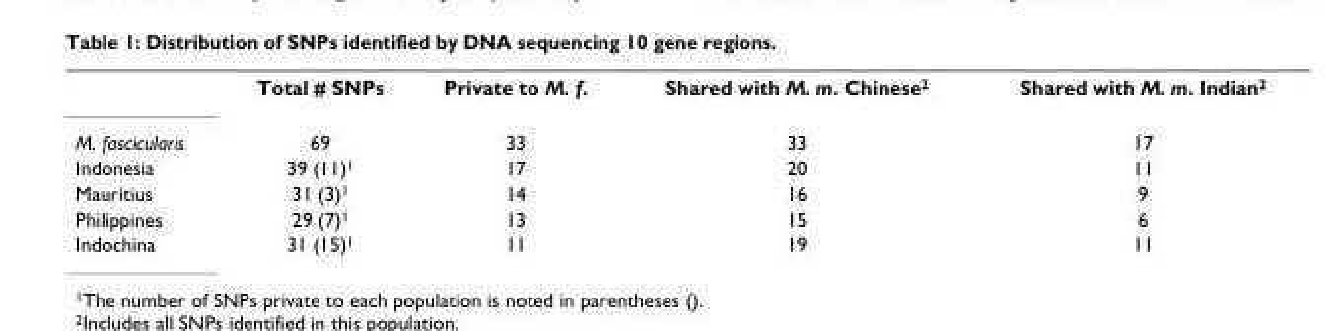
<table><thead><tr><td></td><td>Total # SNPs</td><td>Private to M. f.</td><td>Shared with M. m. Chinese<sup>2</sup></td><td>Shared with M. m. Indian<sup>2</sup></td></tr></thead><tbody><tr><td>M. fascicularis</td><td>69</td><td>33</td><td>33</td><td>17</td></tr><tr><td>Indonesia</td><td>39 (11)<sup>1</sup></td><td>17</td><td>20</td><td>11</td></tr><tr><td>Mauritius</td><td>31 (3)<sup>1</sup></td><td>14</td><td>16</td><td>9</td></tr><tr><td>Philippines</td><td>29 (7)<sup>1</sup></td><td>13</td><td>15</td><td>6</td></tr><tr><td>Indochina</td><td>31 (15)<sup>1</sup></td><td>11</td><td>19</td><td>11</td></tr></tbody></table>